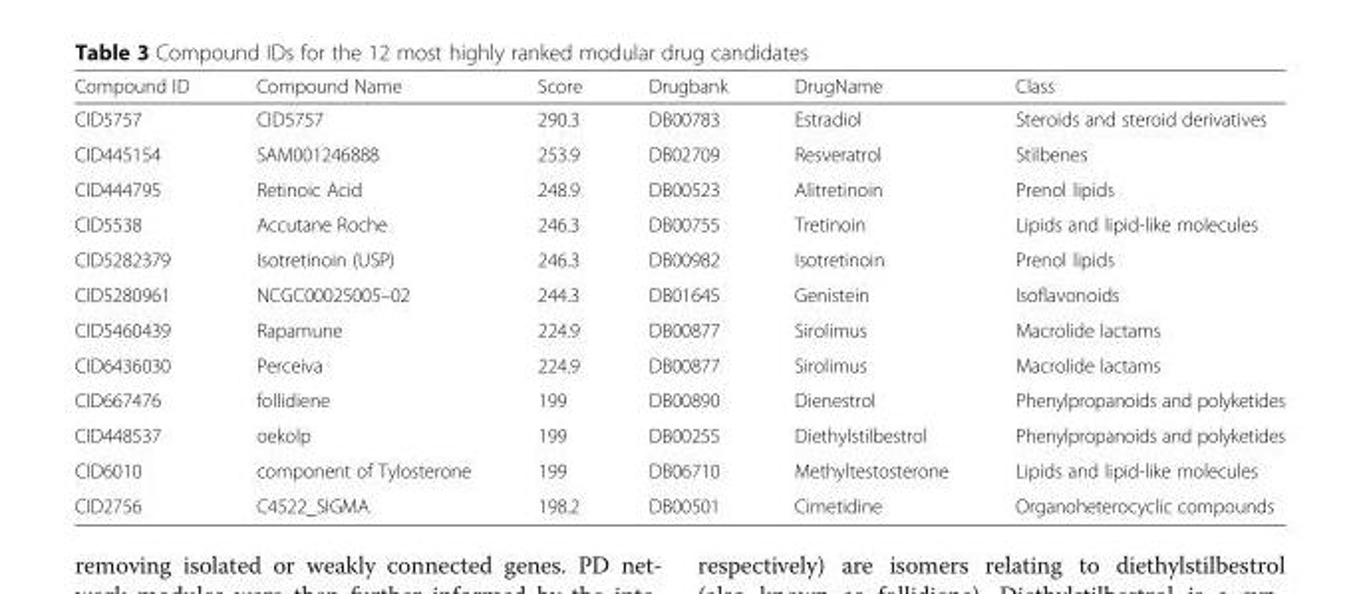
<table><thead><tr><td>Compound ID</td><td>Compound Name</td><td>Score</td><td>Drugbank</td><td>DrugName</td><td>Class</td></tr></thead><tbody><tr><td>CID5757</td><td>CID5757</td><td>290.3</td><td>DB00783</td><td>Estradiol</td><td>Steroids and steroid derivatives</td></tr><tr><td>CID445154</td><td>SAM001246888</td><td>253.9</td><td>DB02709</td><td>Resveratrol</td><td>Stilbenes</td></tr><tr><td>CID444795</td><td>Retinoic Acid</td><td>248.9</td><td>DB00523</td><td>Alitretinoin</td><td>Prenol lipids</td></tr><tr><td>CID5538</td><td>Accutane Roche</td><td>246.3</td><td>DB00755</td><td>Tretinoin</td><td>Lipids and lipid-like molecules</td></tr><tr><td>CID5282379</td><td>Isotretinoin (USP)</td><td>246.3</td><td>DB00982</td><td>Isotretinoin</td><td>Prenol lipids</td></tr><tr><td>CID5280961</td><td>NCGC00025005–02</td><td>244.3</td><td>DB01645</td><td>Genistein</td><td>Isoflavonoids</td></tr><tr><td>CID5460439</td><td>Rapamune</td><td>224.9</td><td>DB00877</td><td>Sirolimus</td><td>Macrolide lactams</td></tr><tr><td>CID6436030</td><td>Perceiva</td><td>224.9</td><td>DB00877</td><td>Sirolimus</td><td>Macrolide lactams</td></tr><tr><td>CID667476</td><td>follidiene</td><td>199</td><td>DB00890</td><td>Dienestrol</td><td>Phenylpropanoids and polyketides</td></tr><tr><td>CID448537</td><td>oekolp</td><td>199</td><td>DB00255</td><td>Diethylstilbestrol</td><td>Phenylpropanoids and polyketides</td></tr><tr><td>CID6010</td><td>component of Tylosterone</td><td>199</td><td>DB06710</td><td>Methyltestosterone</td><td>Lipids and lipid-like molecules</td></tr><tr><td>CID2756</td><td>C4522_SIGMA</td><td>198.2</td><td>DB00501</td><td>Cimetidine</td><td>Organoheterocyclic compounds</td></tr></tbody></table>